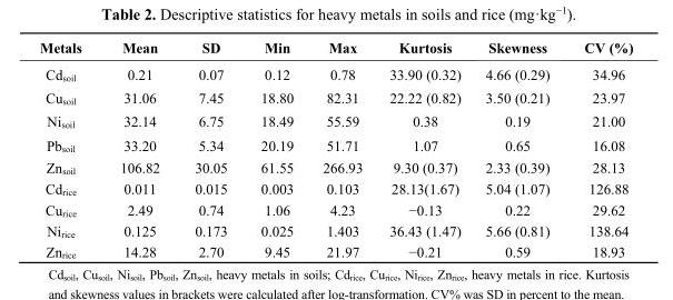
<table><thead><tr><td>Metals</td><td>Mean</td><td>SD</td><td>Min</td><td>Max</td><td>Kurtosis</td><td>Skewness</td><td>CV (%)</td></tr></thead><tbody><tr><td>Cd<sub>soil</sub></td><td>0.21</td><td>0.07</td><td>0.12</td><td>0.78</td><td>33.90 (0.32)</td><td>4.66 (0.29)</td><td>34.96</td></tr><tr><td>Cu<sub>soil</sub></td><td>31.06</td><td>7.45</td><td>18.80</td><td>82.31</td><td>22.22 (0.82)</td><td>3.50 (0.21)</td><td>23.97</td></tr><tr><td>Ni<sub>soil</sub></td><td>32.14</td><td>6.75</td><td>18.49</td><td>55.59</td><td>0.38</td><td>0.19</td><td>21.00</td></tr><tr><td>Pb<sub>soil</sub></td><td>33.20</td><td>5.34</td><td>20.19</td><td>51.71</td><td>1.07</td><td>0.65</td><td>16.08</td></tr><tr><td>Zn<sub>soil</sub></td><td>106.82</td><td>30.05</td><td>61.55</td><td>266.93</td><td>9.30 (0.37)</td><td>2.33 (0.39)</td><td>28.13</td></tr><tr><td>Cd<sub>rice</sub></td><td>0.011</td><td>0.015</td><td>0.003</td><td>0.103</td><td>28.13(1.67)</td><td>5.04 (1.07)</td><td>126.88</td></tr><tr><td>Cu<sub>rice</sub></td><td>2.49</td><td>0.74</td><td>1.06</td><td>4.23</td><td>−0.13</td><td>0.22</td><td>29.62</td></tr><tr><td>Ni<sub>rice</sub></td><td>0.125</td><td>0.173</td><td>0.025</td><td>1.403</td><td>36.43 (1.47)</td><td>5.66 (0.81)</td><td>138.64</td></tr><tr><td>Zn<sub>rice</sub></td><td>14.28</td><td>2.70</td><td>9.45</td><td>21.97</td><td>−0.21</td><td>0.59</td><td>18.93</td></tr></tbody></table>